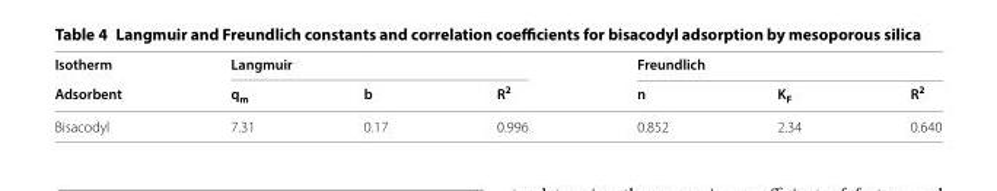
<table><thead><tr><td rowspan="2">Isotherm Adsorbent</td><td colspan="3">Langmuir</td><td colspan="3">Freundlich</td></tr><tr><td>q<sub>m</sub></td><td>b</td><td>R<sup>2</sup></td><td>n</td><td>K<sub>F</sub></td><td>R<sup>2</sup></td></tr></thead><tbody><tr><td>Bisacodyl</td><td>7.31</td><td>0.17</td><td>0.996</td><td>0.852</td><td>2.34</td><td>0.640</td></tr></tbody></table>